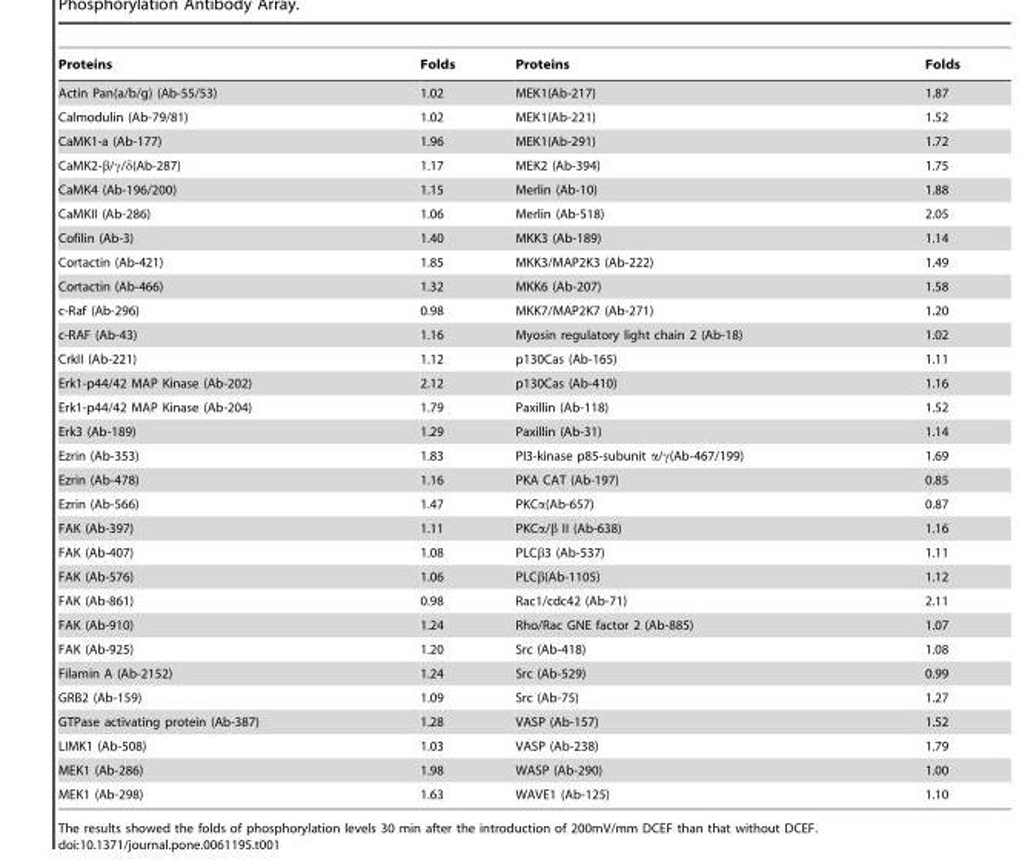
<table><thead><tr><td>Proteins</td><td>Folds</td><td>Proteins</td><td>Folds</td></tr></thead><tbody><tr><td>Actin Pan(a/b/g) (Ab-55/53)</td><td>1.02</td><td>MEK1(Ab-217)</td><td>1.87</td></tr><tr><td>Calmodulin (Ab-79/81)</td><td>1.02</td><td>MEK1(Ab-221)</td><td>1.52</td></tr><tr><td>CaMK1-a (Ab-177)</td><td>1.96</td><td>MEK1(Ab-291)</td><td>1.72</td></tr><tr><td>CaMK2-β/γ/δ(Ab-287)</td><td>1.17</td><td>MEK2 (Ab-394)</td><td>1.75</td></tr><tr><td>CaMK4 (Ab-196/200)</td><td>1.15</td><td>Merlin (Ab-10)</td><td>1.88</td></tr><tr><td>CaMKII (Ab-286)</td><td>1.06</td><td>Merlin (Ab-518)</td><td>2.05</td></tr><tr><td>Cofilin (Ab-3)</td><td>1.40</td><td>MKK3 (Ab-189)</td><td>1.14</td></tr><tr><td>Cortactin (Ab-421)</td><td>1.85</td><td>MKK3/MAP2K3 (Ab-222)</td><td>1.49</td></tr><tr><td>Cortactin (Ab-466)</td><td>1.32</td><td>MKK6 (Ab-207)</td><td>1.58</td></tr><tr><td>c-Raf (Ab-296)</td><td>0.98</td><td>MKK7/MAP2K7 (Ab-271)</td><td>1.20</td></tr><tr><td>c-RAF (Ab-43)</td><td>1.16</td><td>Myosin regulatory light chain 2 (Ab-18)</td><td>1.02</td></tr><tr><td>CrkII (Ab-221)</td><td>1.12</td><td>p130Cas (Ab-165)</td><td>1.11</td></tr><tr><td>Erk1-p44/42 MAP Kinase (Ab-202)</td><td>2.12</td><td>p130Cas (Ab-410)</td><td>1.16</td></tr><tr><td>Erk1-p44/42 MAP Kinase (Ab-204)</td><td>1.79</td><td>Paxillin (Ab-118)</td><td>1.52</td></tr><tr><td>Erk3 (Ab-189)</td><td>1.29</td><td>Paxillin (Ab-31)</td><td>1.14</td></tr><tr><td>Ezrin (Ab-353)</td><td>1.83</td><td>PI3-kinase p85-subunit α/γ(Ab-467/199)</td><td>1.69</td></tr><tr><td>Ezrin (Ab-478)</td><td>1.16</td><td>PKA CAT (Ab-197)</td><td>0.85</td></tr><tr><td>Ezrin (Ab-566)</td><td>1.47</td><td>PKCα(Ab-657)</td><td>0.87</td></tr><tr><td>FAK (Ab-397)</td><td>1.11</td><td>PKCα/β II (Ab-638)</td><td>1.16</td></tr><tr><td>FAK (Ab-407)</td><td>1.08</td><td>PLCβ3 (Ab-537)</td><td>1.11</td></tr><tr><td>FAK (Ab-576)</td><td>1.06</td><td>PLCβ(Ab-1105)</td><td>1.12</td></tr><tr><td>FAK (Ab-861)</td><td>0.98</td><td>Rac1/cdc42 (Ab-71)</td><td>2.11</td></tr><tr><td>FAK (Ab-910)</td><td>1.24</td><td>Rho/Rac GNE factor 2 (Ab-885)</td><td>1.07</td></tr><tr><td>FAK (Ab-925)</td><td>1.20</td><td>Src (Ab-418)</td><td>1.08</td></tr><tr><td>Filamin A (Ab-2152)</td><td>1.24</td><td>Src (Ab-529)</td><td>0.99</td></tr><tr><td>GRB2 (Ab-159)</td><td>1.09</td><td>Src (Ab-75)</td><td>1.27</td></tr><tr><td>GTPase activating protein (Ab-387)</td><td>1.28</td><td>VASP (Ab-157)</td><td>1.52</td></tr><tr><td>LIMK1 (Ab-508)</td><td>1.03</td><td>VASP (Ab-238)</td><td>1.79</td></tr><tr><td>MEK1 (Ab-286)</td><td>1.98</td><td>WASP (Ab-290)</td><td>1.00</td></tr><tr><td>MEK1 (Ab-298)</td><td>1.63</td><td>WAVE1 (Ab-125)</td><td>1.10</td></tr></tbody></table>